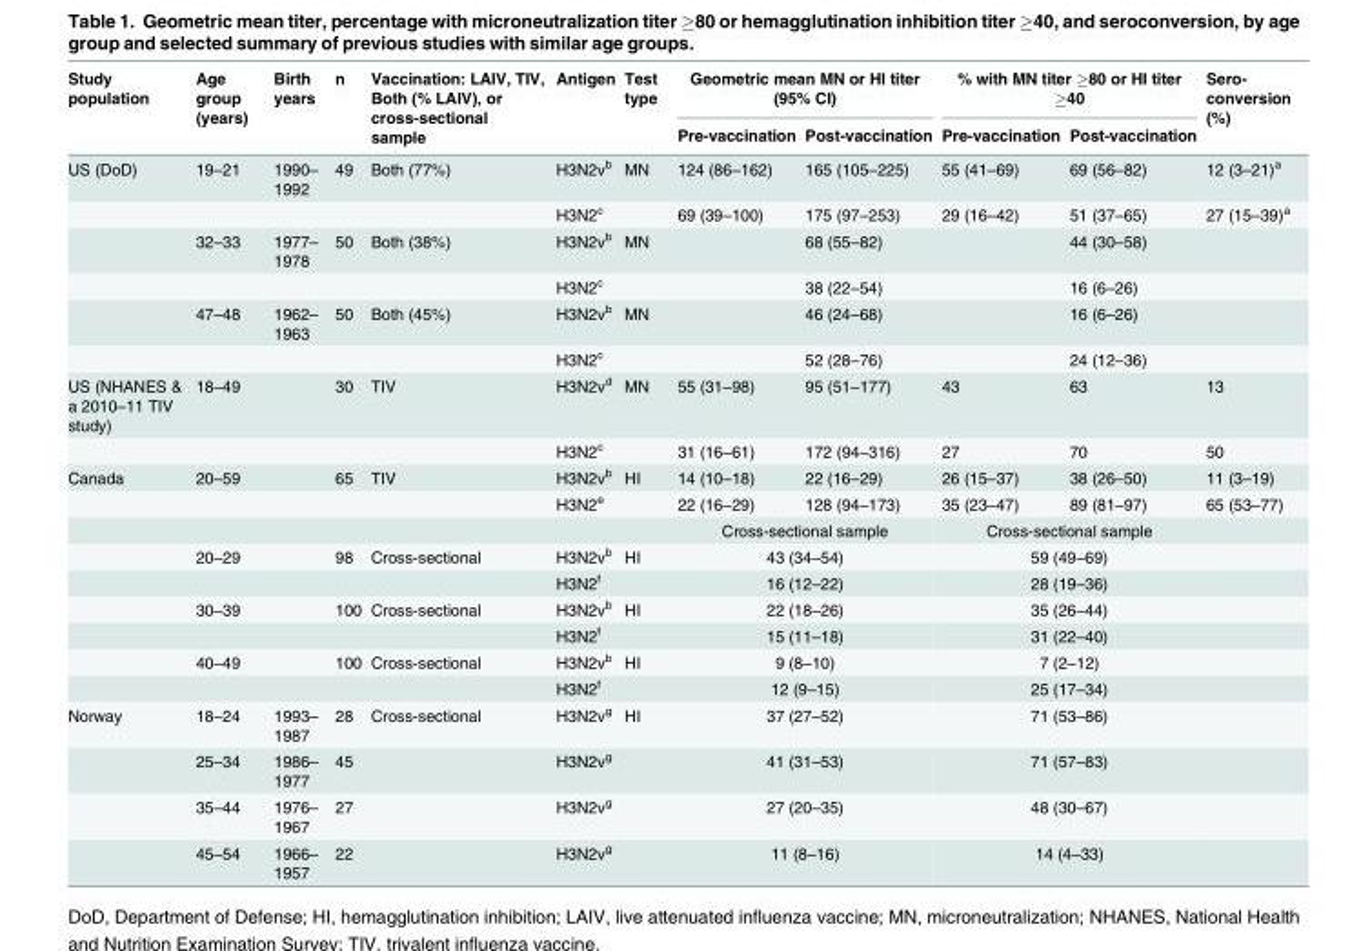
<table><thead><tr><td rowspan="2">Study population</td><td rowspan="2">Age group (years)</td><td rowspan="2">Birth years</td><td rowspan="2">n</td><td rowspan="2">Vaccination: LAIV, TIV, Both (% LAIV), or cross-sectional sample</td><td rowspan="2">Antigen</td><td rowspan="2">Test type</td><td colspan="2">Geometric mean MN or HI titer (95% CI)</td><td colspan="2">% with MN titer ≥80 or HI titer ≥40</td><td rowspan="2">Sero- conversion (%)</td></tr><tr><td>Pre-vaccination</td><td>Post-vaccination</td><td>Pre-vaccination</td><td>Post-vaccination</td></tr></thead><tbody><tr><td rowspan="6">US (DoD)</td><td>19–21</td><td>1990– 1992</td><td>49</td><td>Both (77%)</td><td>H3N2v<sup>b</sup></td><td>MN</td><td>124 (86–162)</td><td>165 (105–225)</td><td>55 (41–69)</td><td>69 (56–82)</td><td>12 (3–21)<sup>a</sup></td></tr><tr><td></td><td></td><td></td><td></td><td>H3N2<sup>c</sup></td><td></td><td>69 (39–100)</td><td>175 (97–253)</td><td>29 (16–42)</td><td>51 (37–65)</td><td>27 (15–39)<sup>a</sup></td></tr><tr><td>32–33</td><td>1977– 1978</td><td>50</td><td>Both (38%)</td><td>H3N2v<sup>b</sup></td><td>MN</td><td></td><td>68 (55–82)</td><td></td><td>44 (30–58)</td><td></td></tr><tr><td></td><td></td><td></td><td></td><td>H3N2<sup>c</sup></td><td></td><td></td><td>38 (22–54)</td><td></td><td>16 (6–26)</td><td></td></tr><tr><td>47–48</td><td>1962– 1963</td><td>50</td><td>Both (45%)</td><td>H3N2v<sup>b</sup></td><td>MN</td><td></td><td>46 (24–68)</td><td></td><td>16 (6–26)</td><td></td></tr><tr><td></td><td></td><td></td><td></td><td>H3N2<sup>c</sup></td><td></td><td></td><td>52 (28–76)</td><td></td><td>24 (12–36)</td><td></td></tr><tr><td rowspan="2">US (NHANES &amp; a 2010–11 TIV study)</td><td>18–49</td><td></td><td>30</td><td>TIV</td><td>H3N2v<sup>d</sup></td><td>MN</td><td>55 (31–98)</td><td>95 (51–177)</td><td>43</td><td>63</td><td>13</td></tr><tr><td></td><td></td><td></td><td></td><td>H3N2<sup>c</sup></td><td></td><td>31 (16–61)</td><td>172 (94–316)</td><td>27</td><td>70</td><td>50</td></tr><tr><td rowspan="9">Canada</td><td>20–59</td><td></td><td>65</td><td>TIV</td><td>H3N2v<sup>b</sup></td><td>HI</td><td>14 (10–18)</td><td>22 (16–29)</td><td>26 (15–37)</td><td>38 (26–50)</td><td>11 (3–19)</td></tr><tr><td></td><td></td><td></td><td></td><td>H3N2<sup>e</sup></td><td></td><td>22 (16–29)</td><td>128 (94–173)</td><td>35 (23–47)</td><td>89 (81–97)</td><td>65 (53–77)</td></tr><tr><td></td><td></td><td></td><td></td><td></td><td></td><td colspan="2">Cross-sectional sample</td><td colspan="2">Cross-sectional sample</td><td></td></tr><tr><td>20–29</td><td></td><td>98</td><td>Cross-sectional</td><td>H3N2v<sup>b</sup></td><td>HI</td><td colspan="2">43 (34–54)</td><td colspan="2">59 (49–69)</td><td></td></tr><tr><td></td><td></td><td></td><td></td><td>H3N2<sup>f</sup></td><td></td><td colspan="2">16 (12–22)</td><td colspan="2">28 (19–36)</td><td></td></tr><tr><td>30–39</td><td></td><td>100</td><td>Cross-sectional</td><td>H3N2v<sup>b</sup></td><td>HI</td><td colspan="2">22 (18–26)</td><td colspan="2">35 (26–44)</td><td></td></tr><tr><td></td><td></td><td></td><td></td><td>H3N2<sup>f</sup></td><td></td><td colspan="2">15 (11–18)</td><td colspan="2">31 (22–40)</td><td></td></tr><tr><td>40–49</td><td></td><td>100</td><td>Cross-sectional</td><td>H3N2v<sup>b</sup></td><td>HI</td><td colspan="2">9 (8–10)</td><td colspan="2">7 (2–12)</td><td></td></tr><tr><td></td><td></td><td></td><td></td><td>H3N2<sup>f</sup></td><td></td><td colspan="2">12 (9–15)</td><td colspan="2">25 (17–34)</td><td></td></tr><tr><td rowspan="4">Norway</td><td>18–24</td><td>1993– 1987</td><td>28</td><td>Cross-sectional</td><td>H3N2v<sup>g</sup></td><td>HI</td><td colspan="2">37 (27–52)</td><td colspan="2">71 (53–86)</td><td></td></tr><tr><td>25–34</td><td>1986– 1977</td><td>45</td><td></td><td>H3N2v<sup>g</sup></td><td></td><td colspan="2">41 (31–53)</td><td colspan="2">71 (57–83)</td><td></td></tr><tr><td>35–44</td><td>1976– 1967</td><td>27</td><td></td><td>H3N2v<sup>g</sup></td><td></td><td colspan="2">27 (20–35)</td><td colspan="2">48 (30–67)</td><td></td></tr><tr><td>45–54</td><td>1966– 1957</td><td>22</td><td></td><td>H3N2v<sup>g</sup></td><td></td><td colspan="2">11 (8–16)</td><td colspan="2">14 (4–33)</td><td></td></tr></tbody></table>